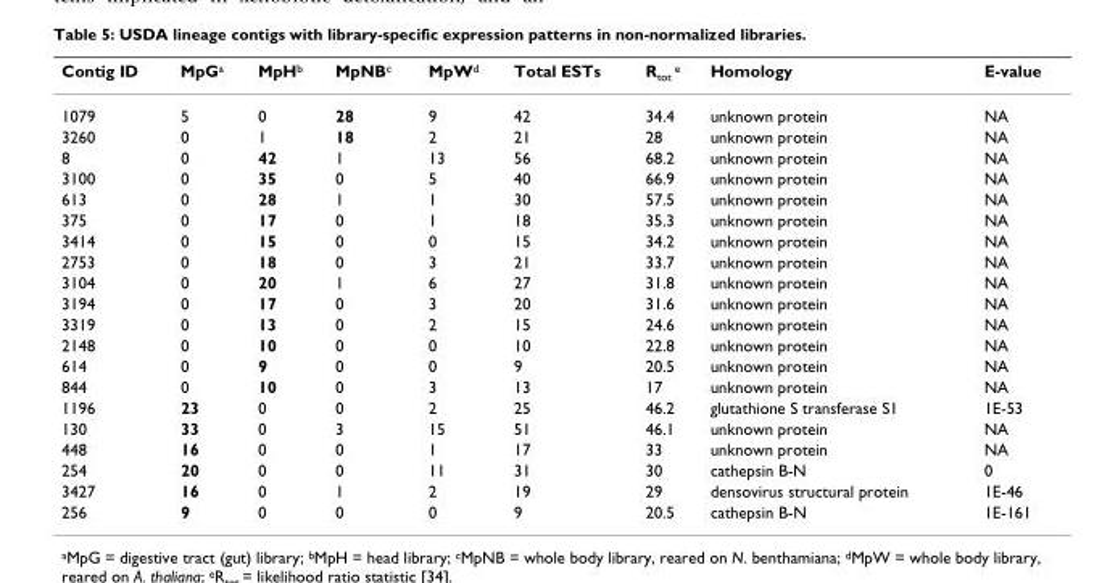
<table><thead><tr><td>Contig ID</td><td>MpG<sup>a</sup></td><td>MpH<sup>b</sup></td><td>MpNB<sup>c</sup></td><td>MpW<sup>d</sup></td><td>Total ESTs</td><td>R<sub>tot</sub> <sup>e</sup></td><td>Homology</td><td>E-value</td></tr></thead><tbody><tr><td>1079</td><td>5</td><td>0</td><td>28</td><td>9</td><td>42</td><td>34.4</td><td>unknown protein</td><td>NA</td></tr><tr><td>3260</td><td>0</td><td>1</td><td>18</td><td>2</td><td>21</td><td>28</td><td>unknown protein</td><td>NA</td></tr><tr><td>8</td><td>0</td><td>42</td><td>1</td><td>13</td><td>56</td><td>68.2</td><td>unknown protein</td><td>NA</td></tr><tr><td>3100</td><td>0</td><td>35</td><td>0</td><td>5</td><td>40</td><td>66.9</td><td>unknown protein</td><td>NA</td></tr><tr><td>613</td><td>0</td><td>28</td><td>1</td><td>1</td><td>30</td><td>57.5</td><td>unknown protein</td><td>NA</td></tr><tr><td>375</td><td>0</td><td>17</td><td>0</td><td>1</td><td>18</td><td>35.3</td><td>unknown protein</td><td>NA</td></tr><tr><td>3414</td><td>0</td><td>15</td><td>0</td><td>0</td><td>15</td><td>34.2</td><td>unknown protein</td><td>NA</td></tr><tr><td>2753</td><td>0</td><td>18</td><td>0</td><td>3</td><td>21</td><td>33.7</td><td>unknown protein</td><td>NA</td></tr><tr><td>3104</td><td>0</td><td>20</td><td>1</td><td>6</td><td>27</td><td>31.8</td><td>unknown protein</td><td>NA</td></tr><tr><td>3194</td><td>0</td><td>17</td><td>0</td><td>3</td><td>20</td><td>31.6</td><td>unknown protein</td><td>NA</td></tr><tr><td>3319</td><td>0</td><td>13</td><td>0</td><td>2</td><td>15</td><td>24.6</td><td>unknown protein</td><td>NA</td></tr><tr><td>2148</td><td>0</td><td>10</td><td>0</td><td>0</td><td>10</td><td>22.8</td><td>unknown protein</td><td>NA</td></tr><tr><td>614</td><td>0</td><td>9</td><td>0</td><td>0</td><td>9</td><td>20.5</td><td>unknown protein</td><td>NA</td></tr><tr><td>844</td><td>0</td><td>10</td><td>0</td><td>3</td><td>13</td><td>17</td><td>unknown protein</td><td>NA</td></tr><tr><td>1196</td><td>23</td><td>0</td><td>0</td><td>2</td><td>25</td><td>46.2</td><td>glutathione S transferase S1</td><td>1E-53</td></tr><tr><td>130</td><td>33</td><td>0</td><td>3</td><td>15</td><td>51</td><td>46.1</td><td>unknown protein</td><td>NA</td></tr><tr><td>448</td><td>16</td><td>0</td><td>0</td><td>1</td><td>17</td><td>33</td><td>unknown protein</td><td>NA</td></tr><tr><td>254</td><td>20</td><td>0</td><td>0</td><td>11</td><td>31</td><td>30</td><td>cathepsin B-N</td><td>0</td></tr><tr><td>3427</td><td>16</td><td>0</td><td>1</td><td>2</td><td>19</td><td>29</td><td>densovirus structural protein</td><td>1E-46</td></tr><tr><td>256</td><td>9</td><td>0</td><td>0</td><td>0</td><td>9</td><td>20.5</td><td>cathepsin B-N</td><td>1E-161</td></tr></tbody></table>